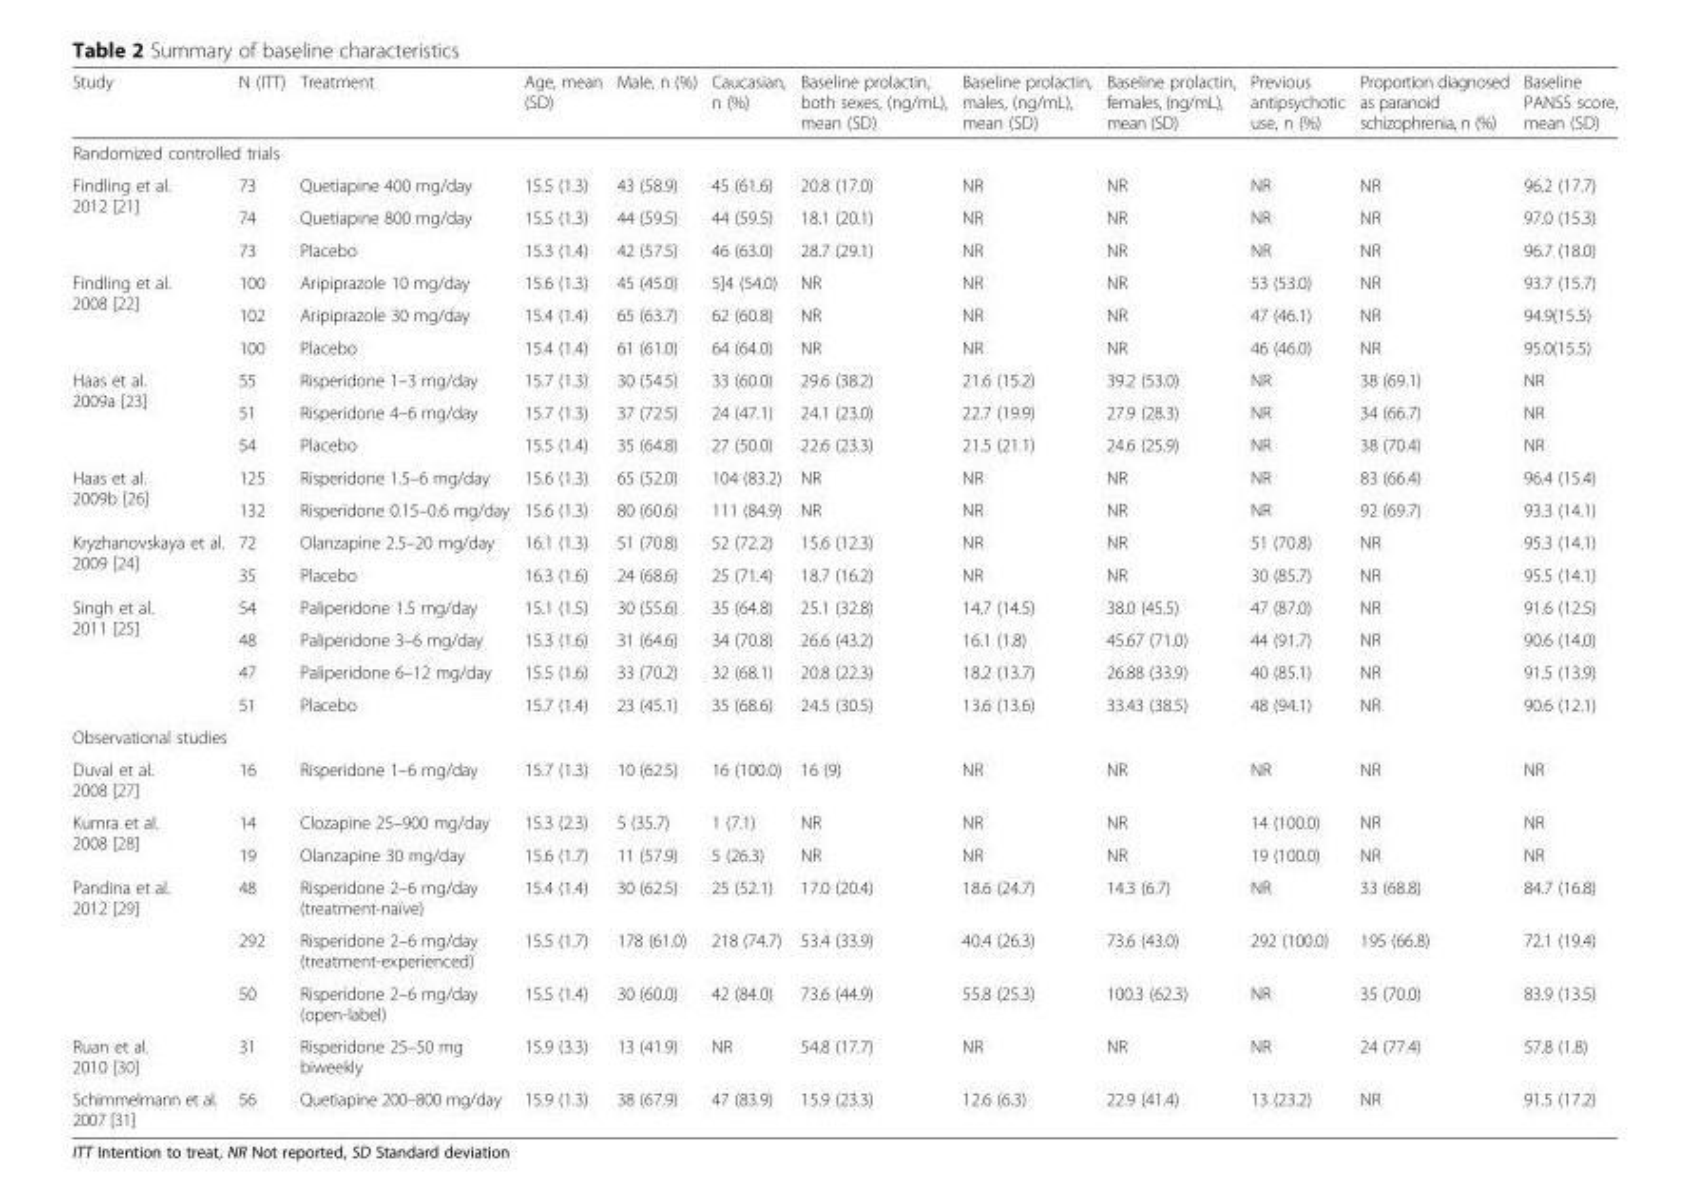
<table><thead><tr><td>Study</td><td>N (ITT)</td><td>Treatment</td><td>Age, mean (SD)</td><td>Male, n (%)</td><td>Caucasian, n (%)</td><td>Baseline prolactin, both sexes, (ng/mL), mean (SD)</td><td>Baseline prolactin, males, (ng/mL), mean (SD)</td><td>Baseline prolactin, females, (ng/mL), mean (SD)</td><td>Previous antipsychotic use, n (%)</td><td>Proportion diagnosed as paranoid schizophrenia, n (%)</td><td>Baseline PANSS score, mean (SD)</td></tr></thead><tbody><tr><td colspan="12">Randomized controlled trials</td></tr><tr><td rowspan="3">Findling et al. 2012 [21]</td><td>73</td><td>Quetiapine 400 mg/day</td><td>15.5 (1.3)</td><td>43 (58.9)</td><td>45 (61.6)</td><td>20.8 (17.0)</td><td>NR</td><td>NR</td><td>NR</td><td>NR</td><td>96.2 (17.7)</td></tr><tr><td>74</td><td>Quetiapine 800 mg/day</td><td>15.5 (1.3)</td><td>44 (59.5)</td><td>44 (59.5)</td><td>18.1 (20.1)</td><td>NR</td><td>NR</td><td>NR</td><td>NR</td><td>97.0 (15.3)</td></tr><tr><td>73</td><td>Placebo</td><td>15.3 (1.4)</td><td>42 (57.5)</td><td>46 (63.0)</td><td>28.7 (29.1)</td><td>NR</td><td>NR</td><td>NR</td><td>NR</td><td>96.7 (18.0)</td></tr><tr><td rowspan="3">Findling et al. 2008 [22]</td><td>100</td><td>Aripiprazole 10 mg/day</td><td>15.6 (1.3)</td><td>45 (45.0)</td><td>5]4 (54.0)</td><td>NR</td><td>NR</td><td>NR</td><td>53 (53.0)</td><td>NR</td><td>93.7 (15.7)</td></tr><tr><td>102</td><td>Aripiprazole 30 mg/day</td><td>15.4 (1.4)</td><td>65 (63.7)</td><td>62 (60.8)</td><td>NR</td><td>NR</td><td>NR</td><td>47 (46.1)</td><td>NR</td><td>94.9(15.5)</td></tr><tr><td>100</td><td>Placebo</td><td>15.4 (1.4)</td><td>61 (61.0)</td><td>64 (64.0)</td><td>NR</td><td>NR</td><td>NR</td><td>46 (46.0)</td><td>NR</td><td>95.0(15.5)</td></tr><tr><td rowspan="3">Haas et al. 2009a [23]</td><td>55</td><td>Risperidone 1–3 mg/day</td><td>15.7 (1.3)</td><td>30 (54.5)</td><td>33 (60.0)</td><td>29.6 (38.2)</td><td>21.6 (15.2)</td><td>39.2 (53.0)</td><td>NR</td><td>38 (69.1)</td><td>NR</td></tr><tr><td>51</td><td>Risperidone 4–6 mg/day</td><td>15.7 (1.3)</td><td>37 (72.5)</td><td>24 (47.1)</td><td>24.1 (23.0)</td><td>22.7 (19.9)</td><td>27.9 (28.3)</td><td>NR</td><td>34 (66.7)</td><td>NR</td></tr><tr><td>54</td><td>Placebo</td><td>15.5 (1.4)</td><td>35 (64.8)</td><td>27 (50.0)</td><td>22.6 (23.3)</td><td>21.5 (21.1)</td><td>24.6 (25.9)</td><td>NR</td><td>38 (70.4)</td><td>NR</td></tr><tr><td rowspan="2">Haas et al. 2009b [26]</td><td>125</td><td>Risperidone 1.5–6 mg/day</td><td>15.6 (1.3)</td><td>65 (52.0)</td><td>104 (83.2)</td><td>NR</td><td>NR</td><td>NR</td><td>NR</td><td>83 (66.4)</td><td>96.4 (15.4)</td></tr><tr><td>132</td><td>Risperidone 0.15–0.6 mg/day</td><td>15.6 (1.3)</td><td>80 (60.6)</td><td>111 (84.9)</td><td>NR</td><td>NR</td><td>NR</td><td>NR</td><td>92 (69.7)</td><td>93.3 (14.1)</td></tr><tr><td rowspan="2">Kryzhanovskaya et al. 2009 [24]</td><td>72</td><td>Olanzapine 2.5–20 mg/day</td><td>16.1 (1.3)</td><td>51 (70.8)</td><td>52 (72.2)</td><td>15.6 (12.3)</td><td>NR</td><td>NR</td><td>51 (70.8)</td><td>NR</td><td>95.3 (14.1)</td></tr><tr><td>35</td><td>Placebo</td><td>16.3 (1.6)</td><td>24 (68.6)</td><td>25 (71.4)</td><td>18.7 (16.2)</td><td>NR</td><td>NR</td><td>30 (85.7)</td><td>NR</td><td>95.5 (14.1)</td></tr><tr><td rowspan="4">Singh et al. 2011 [25]</td><td>54</td><td>Paliperidone 1.5 mg/day</td><td>15.1 (1.5)</td><td>30 (55.6)</td><td>35 (64.8)</td><td>25.1 (32.8)</td><td>14.7 (14.5)</td><td>38.0 (45.5)</td><td>47 (87.0)</td><td>NR</td><td>91.6 (12.5)</td></tr><tr><td>48</td><td>Paliperidone 3–6 mg/day</td><td>15.3 (1.6)</td><td>31 (64.6)</td><td>34 (70.8)</td><td>26.6 (43.2)</td><td>16.1 (1.8)</td><td>45.67 (71.0)</td><td>44 (91.7)</td><td>NR</td><td>90.6 (14.0)</td></tr><tr><td>47</td><td>Paliperidone 6–12 mg/day</td><td>15.5 (1.6)</td><td>33 (70.2)</td><td>32 (68.1)</td><td>20.8 (22.3)</td><td>18.2 (13.7)</td><td>26.88 (33.9)</td><td>40 (85.1)</td><td>NR</td><td>91.5 (13.9)</td></tr><tr><td>51</td><td>Placebo</td><td>15.7 (1.4)</td><td>23 (45.1)</td><td>35 (68.6)</td><td>24.5 (30.5)</td><td>13.6 (13.6)</td><td>33.43 (38.5)</td><td>48 (94.1)</td><td>NR</td><td>90.6 (12.1)</td></tr><tr><td colspan="12">Observational studies</td></tr><tr><td>Duval et al. 2008 [27]</td><td>16</td><td>Risperidone 1–6 mg/day</td><td>15.7 (1.3)</td><td>10 (62.5)</td><td>16 (100.0)</td><td>16 (9)</td><td>NR</td><td>NR</td><td>NR</td><td>NR</td><td>NR</td></tr><tr><td rowspan="2">Kumra et al. 2008 [28]</td><td>14</td><td>Clozapine 25–900 mg/day</td><td>15.3 (2.3)</td><td>5 (35.7)</td><td>1 (7.1)</td><td>NR</td><td>NR</td><td>NR</td><td>14 (100.0)</td><td>NR</td><td>NR</td></tr><tr><td>19</td><td>Olanzapine 30 mg/day</td><td>15.6 (1.7)</td><td>11 (57.9)</td><td>5 (26.3)</td><td>NR</td><td>NR</td><td>NR</td><td>19 (100.0)</td><td>NR</td><td>NR</td></tr><tr><td rowspan="3">Pandina et al. 2012 [29]</td><td>48</td><td>Risperidone 2–6 mg/day (treatment-naïve)</td><td>15.4 (1.4)</td><td>30 (62.5)</td><td>25 (52.1)</td><td>17.0 (20.4)</td><td>18.6 (24.7)</td><td>14.3 (6.7)</td><td>NR</td><td>33 (68.8)</td><td>84.7 (16.8)</td></tr><tr><td>292</td><td>Risperidone 2–6 mg/day (treatment-experienced)</td><td>15.5 (1.7)</td><td>178 (61.0)</td><td>218 (74.7)</td><td>53.4 (33.9)</td><td>40.4 (26.3)</td><td>73.6 (43.0)</td><td>292 (100.0)</td><td>195 (66.8)</td><td>72.1 (19.4)</td></tr><tr><td>50</td><td>Risperidone 2–6 mg/day (open-label)</td><td>15.5 (1.4)</td><td>30 (60.0)</td><td>42 (84.0)</td><td>73.6 (44.9)</td><td>55.8 (25.3)</td><td>100.3 (62.3)</td><td>NR</td><td>35 (70.0)</td><td>83.9 (13.5)</td></tr><tr><td>Ruan et al. 2010 [30]</td><td>31</td><td>Risperidone 25–50 mg biweekly</td><td>15.9 (3.3)</td><td>13 (41.9)</td><td>NR</td><td>54.8 (17.7)</td><td>NR</td><td>NR</td><td>NR</td><td>24 (77.4)</td><td>57.8 (1.8)</td></tr><tr><td>Schimmelmann et al. 2007 [31]</td><td>56</td><td>Quetiapine 200–800 mg/day</td><td>15.9 (1.3)</td><td>38 (67.9)</td><td>47 (83.9)</td><td>15.9 (23.3)</td><td>12.6 (6.3)</td><td>22.9 (41.4)</td><td>13 (23.2)</td><td>NR</td><td>91.5 (17.2)</td></tr></tbody></table>